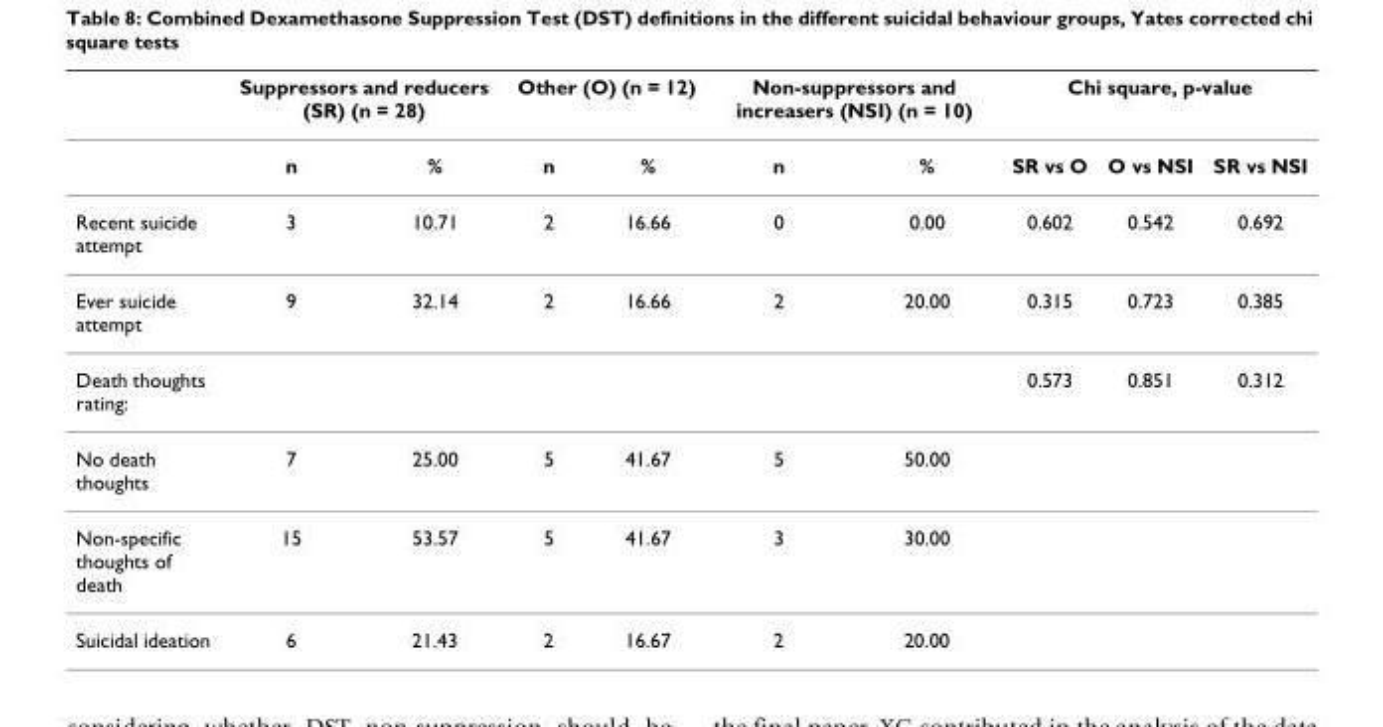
<table><thead><tr><td rowspan="2"></td><td colspan="2">Suppressors and reducers (SR) (n = 28)</td><td colspan="2">Other (O) (n = 12)</td><td colspan="2">Non-suppressors and increasers (NSI) (n = 10)</td><td colspan="3">Chi square, p-value</td></tr><tr><td>n</td><td>%</td><td>n</td><td>%</td><td>n</td><td>%</td><td>SR vs O</td><td>O vs NSI</td><td>SR vs NSI</td></tr></thead><tbody><tr><td>Recent suicide attempt</td><td>3</td><td>10.71</td><td>2</td><td>16.66</td><td>0</td><td>0.00</td><td>0.602</td><td>0.542</td><td>0.692</td></tr><tr><td>Ever suicide attempt</td><td>9</td><td>32.14</td><td>2</td><td>16.66</td><td>2</td><td>20.00</td><td>0.315</td><td>0.723</td><td>0.385</td></tr><tr><td>Death thoughts rating:</td><td></td><td></td><td></td><td></td><td></td><td></td><td>0.573</td><td>0.851</td><td>0.312</td></tr><tr><td>No death thoughts</td><td>7</td><td>25.00</td><td>5</td><td>41.67</td><td>5</td><td>50.00</td><td></td><td></td><td></td></tr><tr><td>Non-specific thoughts of death</td><td>15</td><td>53.57</td><td>5</td><td>41.67</td><td>3</td><td>30.00</td><td></td><td></td><td></td></tr><tr><td>Suicidal ideation</td><td>6</td><td>21.43</td><td>2</td><td>16.67</td><td>2</td><td>20.00</td><td></td><td></td><td></td></tr></tbody></table>